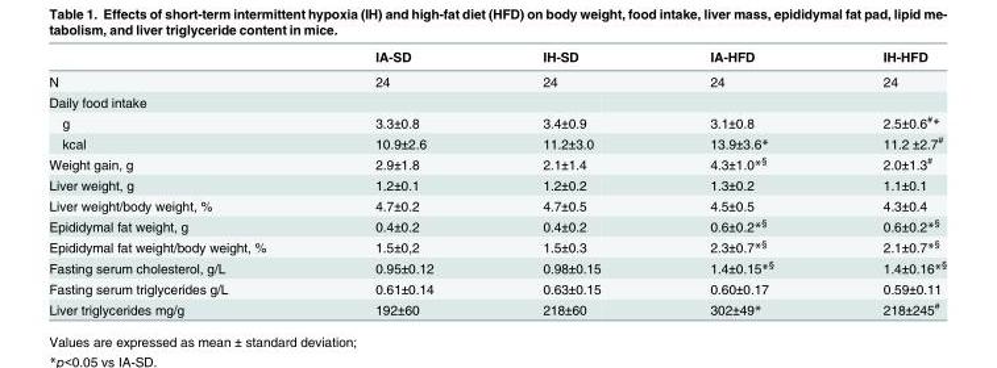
<table><thead><tr><td></td><td>IA-SD</td><td>IH-SD</td><td>IA-HFD</td><td>IH-HFD</td></tr></thead><tbody><tr><td>N</td><td>24</td><td>24</td><td>24</td><td>24</td></tr><tr><td colspan="5">Daily food intake</td></tr><tr><td>g</td><td>3.3±0.8</td><td>3.4±0.9</td><td>3.1±0.8</td><td>2.5±0.6<sup>#</sup>*</td></tr><tr><td>kcal</td><td>10.9±2.6</td><td>11.2±3.0</td><td>13.9±3.6*</td><td>11.2 ±2.7<sup>#</sup></td></tr><tr><td>Weight gain, g</td><td>2.9±1.8</td><td>2.1±1.4</td><td>4.3±1.0*<sup>§</sup></td><td>2.0±1.3<sup>#</sup></td></tr><tr><td>Liver weight, g</td><td>1.2±0.1</td><td>1.2±0.2</td><td>1.3±0.2</td><td>1.1±0.1</td></tr><tr><td>Liver weight/body weight, %</td><td>4.7±0.2</td><td>4.7±0.5</td><td>4.5±0.5</td><td>4.3±0.4</td></tr><tr><td>Epididymal fat weight, g</td><td>0.4±0.2</td><td>0.4±0.2</td><td>0.6±0.2*<sup>§</sup></td><td>0.6±0.2*<sup>§</sup></td></tr><tr><td>Epididymal fat weight/body weight, %</td><td>1.5±0,2</td><td>1.5±0.3</td><td>2.3±0.7*<sup>§</sup></td><td>2.1±0.7*<sup>§</sup></td></tr><tr><td>Fasting serum cholesterol, g/L</td><td>0.95±0.12</td><td>0.98±0.15</td><td>1.4±0.15*<sup>§</sup></td><td>1.4±0.16*<sup>§</sup></td></tr><tr><td>Fasting serum triglycerides g/L</td><td>0.61±0.14</td><td>0.63±0.15</td><td>0.60±0.17</td><td>0.59±0.11</td></tr><tr><td>Liver triglycerides mg/g</td><td>192±60</td><td>218±60</td><td>302±49*</td><td>218±245<sup>#</sup></td></tr></tbody></table>